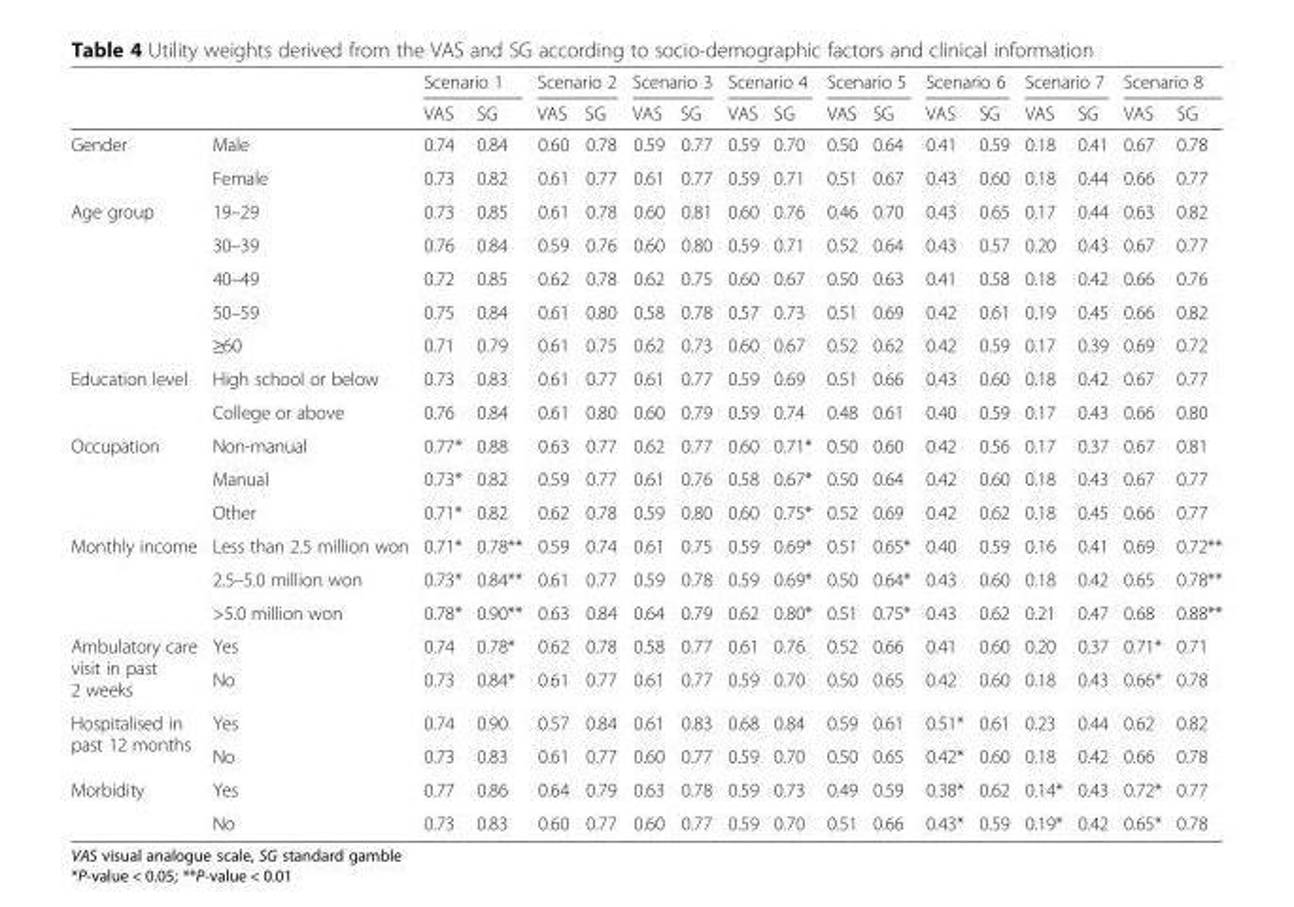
<table><thead><tr><td rowspan="2"></td><td rowspan="2"></td><td colspan="2">Scenario 1</td><td colspan="2">Scenario 2</td><td colspan="2">Scenario 3</td><td colspan="2">Scenario 4</td><td colspan="2">Scenario 5</td><td colspan="2">Scenario 6</td><td colspan="2">Scenario 7</td><td colspan="2">Scenario 8</td></tr><tr><td>VAS</td><td>SG</td><td>VAS</td><td>SG</td><td>VAS</td><td>SG</td><td>VAS</td><td>SG</td><td>VAS</td><td>SG</td><td>VAS</td><td>SG</td><td>VAS</td><td>SG</td><td>VAS</td><td>SG</td></tr></thead><tbody><tr><td rowspan="2">Gender</td><td>Male</td><td>0.74</td><td>0.84</td><td>0.60</td><td>0.78</td><td>0.59</td><td>0.77</td><td>0.59</td><td>0.70</td><td>0.50</td><td>0.64</td><td>0.41</td><td>0.59</td><td>0.18</td><td>0.41</td><td>0.67</td><td>0.78</td></tr><tr><td>Female</td><td>0.73</td><td>0.82</td><td>0.61</td><td>0.77</td><td>0.61</td><td>0.77</td><td>0.59</td><td>0.71</td><td>0.51</td><td>0.67</td><td>0.43</td><td>0.60</td><td>0.18</td><td>0.44</td><td>0.66</td><td>0.77</td></tr><tr><td rowspan="5">Age group</td><td>19–29</td><td>0.73</td><td>0.85</td><td>0.61</td><td>0.78</td><td>0.60</td><td>0.81</td><td>0.60</td><td>0.76</td><td>0.46</td><td>0.70</td><td>0.43</td><td>0.65</td><td>0.17</td><td>0.44</td><td>0.63</td><td>0.82</td></tr><tr><td>30–39</td><td>0.76</td><td>0.84</td><td>0.59</td><td>0.76</td><td>0.60</td><td>0.80</td><td>0.59</td><td>0.71</td><td>0.52</td><td>0.64</td><td>0.43</td><td>0.57</td><td>0.20</td><td>0.43</td><td>0.67</td><td>0.77</td></tr><tr><td>40–49</td><td>0.72</td><td>0.85</td><td>0.62</td><td>0.78</td><td>0.62</td><td>0.75</td><td>0.60</td><td>0.67</td><td>0.50</td><td>0.63</td><td>0.41</td><td>0.58</td><td>0.18</td><td>0.42</td><td>0.66</td><td>0.76</td></tr><tr><td>50–59</td><td>0.75</td><td>0.84</td><td>0.61</td><td>0.80</td><td>0.58</td><td>0.78</td><td>0.57</td><td>0.73</td><td>0.51</td><td>0.69</td><td>0.42</td><td>0.61</td><td>0.19</td><td>0.45</td><td>0.66</td><td>0.82</td></tr><tr><td>≥60</td><td>0.71</td><td>0.79</td><td>0.61</td><td>0.75</td><td>0.62</td><td>0.73</td><td>0.60</td><td>0.67</td><td>0.52</td><td>0.62</td><td>0.42</td><td>0.59</td><td>0.17</td><td>0.39</td><td>0.69</td><td>0.72</td></tr><tr><td rowspan="2">Education level</td><td>High school or below</td><td>0.73</td><td>0.83</td><td>0.61</td><td>0.77</td><td>0.61</td><td>0.77</td><td>0.59</td><td>0.69</td><td>0.51</td><td>0.66</td><td>0.43</td><td>0.60</td><td>0.18</td><td>0.42</td><td>0.67</td><td>0.77</td></tr><tr><td>College or above</td><td>0.76</td><td>0.84</td><td>0.61</td><td>0.80</td><td>0.60</td><td>0.79</td><td>0.59</td><td>0.74</td><td>0.48</td><td>0.61</td><td>0.40</td><td>0.59</td><td>0.17</td><td>0.43</td><td>0.66</td><td>0.80</td></tr><tr><td rowspan="3">Occupation</td><td>Non-manual</td><td>0.77*</td><td>0.88</td><td>0.63</td><td>0.77</td><td>0.62</td><td>0.77</td><td>0.60</td><td>0.71*</td><td>0.50</td><td>0.60</td><td>0.42</td><td>0.56</td><td>0.17</td><td>0.37</td><td>0.67</td><td>0.81</td></tr><tr><td>Manual</td><td>0.73*</td><td>0.82</td><td>0.59</td><td>0.77</td><td>0.61</td><td>0.76</td><td>0.58</td><td>0.67*</td><td>0.50</td><td>0.64</td><td>0.42</td><td>0.60</td><td>0.18</td><td>0.43</td><td>0.67</td><td>0.77</td></tr><tr><td>Other</td><td>0.71*</td><td>0.82</td><td>0.62</td><td>0.78</td><td>0.59</td><td>0.80</td><td>0.60</td><td>0.75*</td><td>0.52</td><td>0.69</td><td>0.42</td><td>0.62</td><td>0.18</td><td>0.45</td><td>0.66</td><td>0.77</td></tr><tr><td rowspan="3">Monthly income</td><td>Less than 2.5 million won</td><td>0.71*</td><td>0.78**</td><td>0.59</td><td>0.74</td><td>0.61</td><td>0.75</td><td>0.59</td><td>0.69*</td><td>0.51</td><td>0.65*</td><td>0.40</td><td>0.59</td><td>0.16</td><td>0.41</td><td>0.69</td><td>0.72**</td></tr><tr><td>2.5–5.0 million won</td><td>0.73*</td><td>0.84**</td><td>0.61</td><td>0.77</td><td>0.59</td><td>0.78</td><td>0.59</td><td>0.69*</td><td>0.50</td><td>0.64*</td><td>0.43</td><td>0.60</td><td>0.18</td><td>0.42</td><td>0.65</td><td>0.78**</td></tr><tr><td>&gt;5.0 million won</td><td>0.78*</td><td>0.90**</td><td>0.63</td><td>0.84</td><td>0.64</td><td>0.79</td><td>0.62</td><td>0.80*</td><td>0.51</td><td>0.75*</td><td>0.43</td><td>0.62</td><td>0.21</td><td>0.47</td><td>0.68</td><td>0.88**</td></tr><tr><td rowspan="2">Ambulatory care visit in past 2 weeks</td><td>Yes</td><td>0.74</td><td>0.78*</td><td>0.62</td><td>0.78</td><td>0.58</td><td>0.77</td><td>0.61</td><td>0.76</td><td>0.52</td><td>0.66</td><td>0.41</td><td>0.60</td><td>0.20</td><td>0.37</td><td>0.71*</td><td>0.71</td></tr><tr><td>No</td><td>0.73</td><td>0.84*</td><td>0.61</td><td>0.77</td><td>0.61</td><td>0.77</td><td>0.59</td><td>0.70</td><td>0.50</td><td>0.65</td><td>0.42</td><td>0.60</td><td>0.18</td><td>0.43</td><td>0.66*</td><td>0.78</td></tr><tr><td rowspan="2">Hospitalised in past 12 months</td><td>Yes</td><td>0.74</td><td>0.90</td><td>0.57</td><td>0.84</td><td>0.61</td><td>0.83</td><td>0.68</td><td>0.84</td><td>0.59</td><td>0.61</td><td>0.51*</td><td>0.61</td><td>0.23</td><td>0.44</td><td>0.62</td><td>0.82</td></tr><tr><td>No</td><td>0.73</td><td>0.83</td><td>0.61</td><td>0.77</td><td>0.60</td><td>0.77</td><td>0.59</td><td>0.70</td><td>0.50</td><td>0.65</td><td>0.42*</td><td>0.60</td><td>0.18</td><td>0.42</td><td>0.66</td><td>0.78</td></tr><tr><td rowspan="2">Morbidity</td><td>Yes</td><td>0.77</td><td>0.86</td><td>0.64</td><td>0.79</td><td>0.63</td><td>0.78</td><td>0.59</td><td>0.73</td><td>0.49</td><td>0.59</td><td>0.38*</td><td>0.62</td><td>0.14*</td><td>0.43</td><td>0.72*</td><td>0.77</td></tr><tr><td>No</td><td>0.73</td><td>0.83</td><td>0.60</td><td>0.77</td><td>0.60</td><td>0.77</td><td>0.59</td><td>0.70</td><td>0.51</td><td>0.66</td><td>0.43*</td><td>0.59</td><td>0.19*</td><td>0.42</td><td>0.65*</td><td>0.78</td></tr></tbody></table>